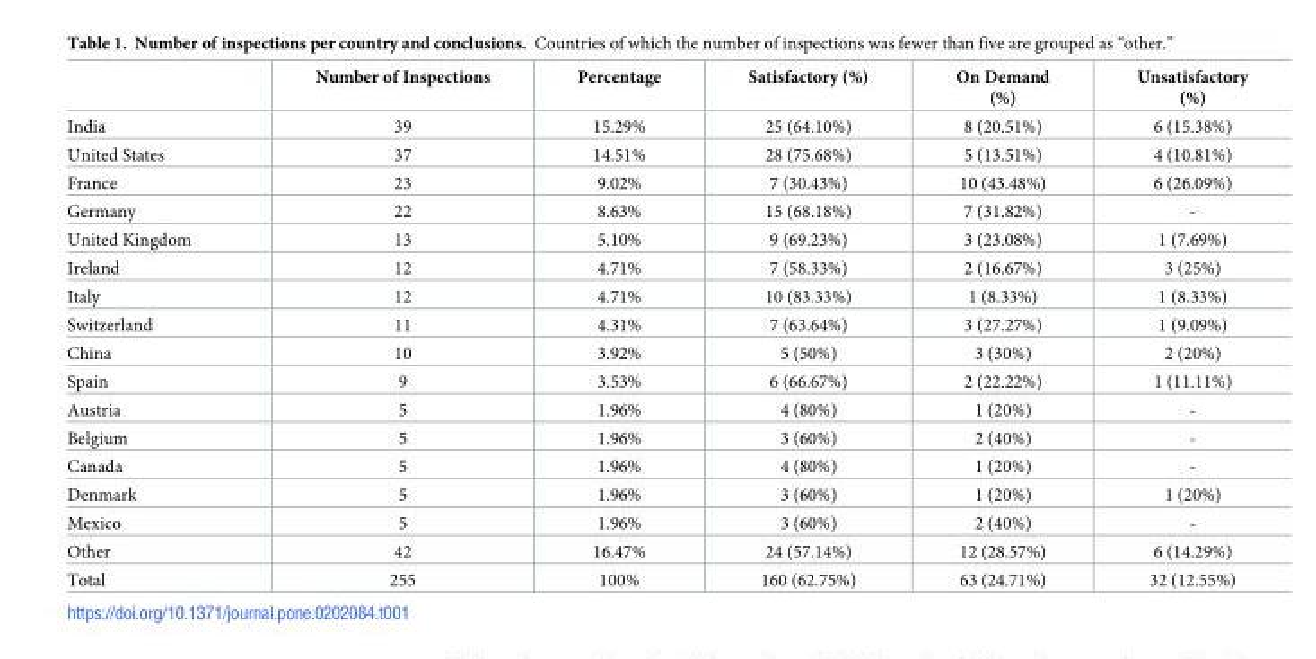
<table><thead><tr><td></td><td>Number of Inspections</td><td>Percentage</td><td>Satisfactory (%)</td><td>On Demand (%)</td><td>Unsatisfactory (%)</td></tr></thead><tbody><tr><td>India</td><td>39</td><td>15.29%</td><td>25 (64.10%)</td><td>8 (20.51%)</td><td>6 (15.38%)</td></tr><tr><td>United States</td><td>37</td><td>14.51%</td><td>28 (75.68%)</td><td>5 (13.51%)</td><td>4 (10.81%)</td></tr><tr><td>France</td><td>23</td><td>9.02%</td><td>7 (30.43%)</td><td>10 (43.48%)</td><td>6 (26.09%)</td></tr><tr><td>Germany</td><td>22</td><td>8.63%</td><td>15 (68.18%)</td><td>7 (31.82%)</td><td>-</td></tr><tr><td>United Kingdom</td><td>13</td><td>5.10%</td><td>9 (69.23%)</td><td>3 (23.08%)</td><td>1 (7.69%)</td></tr><tr><td>Ireland</td><td>12</td><td>4.71%</td><td>7 (58.33%)</td><td>2 (16.67%)</td><td>3 (25%)</td></tr><tr><td>Italy</td><td>12</td><td>4.71%</td><td>10 (83.33%)</td><td>1 (8.33%)</td><td>1 (8.33%)</td></tr><tr><td>Switzerland</td><td>11</td><td>4.31%</td><td>7 (63.64%)</td><td>3 (27.27%)</td><td>1 (9.09%)</td></tr><tr><td>China</td><td>10</td><td>3.92%</td><td>5 (50%)</td><td>3 (30%)</td><td>2 (20%)</td></tr><tr><td>Spain</td><td>9</td><td>3.53%</td><td>6 (66.67%)</td><td>2 (22.22%)</td><td>1 (11.11%)</td></tr><tr><td>Austria</td><td>5</td><td>1.96%</td><td>4 (80%)</td><td>1 (20%)</td><td>-</td></tr><tr><td>Belgium</td><td>5</td><td>1.96%</td><td>3 (60%)</td><td>2 (40%)</td><td>-</td></tr><tr><td>Canada</td><td>5</td><td>1.96%</td><td>4 (80%)</td><td>1 (20%)</td><td>-</td></tr><tr><td>Denmark</td><td>5</td><td>1.96%</td><td>3 (60%)</td><td>1 (20%)</td><td>1 (20%)</td></tr><tr><td>Mexico</td><td>5</td><td>1.96%</td><td>3 (60%)</td><td>2 (40%)</td><td>-</td></tr><tr><td>Other</td><td>42</td><td>16.47%</td><td>24 (57.14%)</td><td>12 (28.57%)</td><td>6 (14.29%)</td></tr><tr><td>Total</td><td>255</td><td>100%</td><td>160 (62.75%)</td><td>63 (24.71%)</td><td>32 (12.55%)</td></tr></tbody></table>